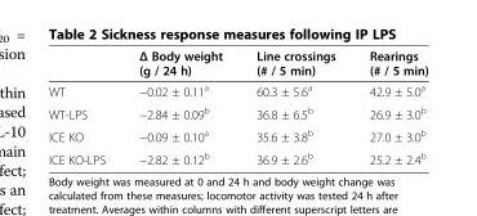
<table><thead><tr><td></td><td>Δ Body weight (g / 24 h)</td><td>Line crossings (# / 5 min)</td><td>Rearings (# / 5 min)</td></tr></thead><tbody><tr><td>WT</td><td>−0.02 ± 0.11<sup>a</sup></td><td>60.3 ± 5.6<sup>a</sup></td><td>42.9 ± 5.0<sup>a</sup></td></tr><tr><td>WT-LPS</td><td>−2.84 ± 0.09<sup>b</sup></td><td>36.8 ± 6.5<sup>b</sup></td><td>26.9 ± 3.0<sup>b</sup></td></tr><tr><td>ICE KO</td><td>−0.09 ± 0.10<sup>a</sup></td><td>35.6 ± 3.8<sup>b</sup></td><td>27.0 ± 3.0<sup>b</sup></td></tr><tr><td>ICE KO-LPS</td><td>−2.82 ± 0.12<sup>b</sup></td><td>36.9 ± 2.6<sup>b</sup></td><td>25.2 ± 2.4<sup>b</sup></td></tr></tbody></table>